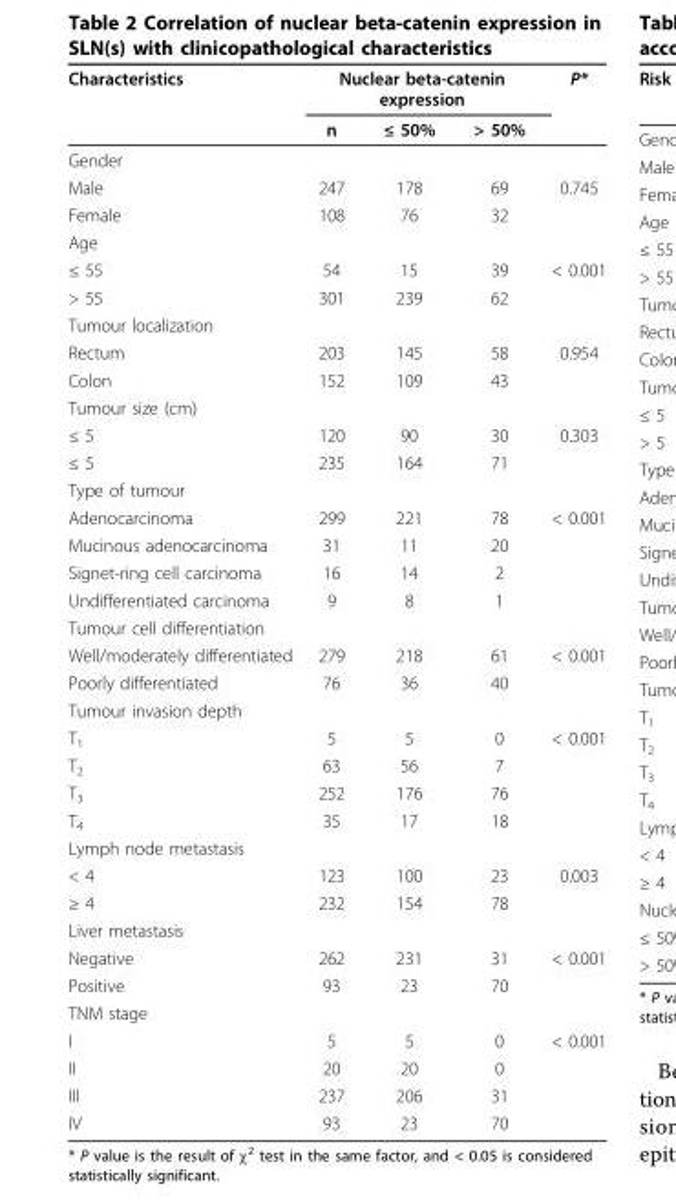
<table><thead><tr><td rowspan="2">Characteristics</td><td colspan="3">Nuclear beta-catenin expression</td><td rowspan="2">P*</td></tr><tr><td>n</td><td>≤ 50%</td><td>&gt; 50%</td></tr></thead><tbody><tr><td colspan="5">Gender</td></tr><tr><td>Male</td><td>247</td><td>178</td><td>69</td><td>0.745</td></tr><tr><td>Female</td><td>108</td><td>76</td><td>32</td><td></td></tr><tr><td colspan="5">Age</td></tr><tr><td>≤ 55</td><td>54</td><td>15</td><td>39</td><td>&lt; 0.001</td></tr><tr><td>&gt; 55</td><td>301</td><td>239</td><td>62</td><td></td></tr><tr><td colspan="5">Tumour localization</td></tr><tr><td>Rectum</td><td>203</td><td>145</td><td>58</td><td>0.954</td></tr><tr><td>Colon</td><td>152</td><td>109</td><td>43</td><td></td></tr><tr><td colspan="5">Tumour size (cm)</td></tr><tr><td>≤ 5</td><td>120</td><td>90</td><td>30</td><td>0.303</td></tr><tr><td>≤ 5</td><td>235</td><td>164</td><td>71</td><td></td></tr><tr><td colspan="5">Type of tumour</td></tr><tr><td>Adenocarcinoma</td><td>299</td><td>221</td><td>78</td><td>&lt; 0.001</td></tr><tr><td>Mucinous adenocarcinoma</td><td>31</td><td>11</td><td>20</td><td></td></tr><tr><td>Signet-ring cell carcinoma</td><td>16</td><td>14</td><td>2</td><td></td></tr><tr><td>Undifferentiated carcinoma</td><td>9</td><td>8</td><td>1</td><td></td></tr><tr><td colspan="5">Tumour cell differentiation</td></tr><tr><td>Well/moderately differentiated</td><td>279</td><td>218</td><td>61</td><td>&lt; 0.001</td></tr><tr><td>Poorly differentiated</td><td>76</td><td>36</td><td>40</td><td></td></tr><tr><td colspan="5">Tumour invasion depth</td></tr><tr><td>T<sub>1</sub></td><td>5</td><td>5</td><td>0</td><td>&lt; 0.001</td></tr><tr><td>T<sub>2</sub></td><td>63</td><td>56</td><td>7</td><td></td></tr><tr><td>T<sub>3</sub></td><td>252</td><td>176</td><td>76</td><td></td></tr><tr><td>T<sub>4</sub></td><td>35</td><td>17</td><td>18</td><td></td></tr><tr><td colspan="5">Lymph node metastasis</td></tr><tr><td>&lt; 4</td><td>123</td><td>100</td><td>23</td><td>0.003</td></tr><tr><td>≥ 4</td><td>232</td><td>154</td><td>78</td><td></td></tr><tr><td colspan="5">Liver metastasis</td></tr><tr><td>Negative</td><td>262</td><td>231</td><td>31</td><td>&lt; 0.001</td></tr><tr><td>Positive</td><td>93</td><td>23</td><td>70</td><td></td></tr><tr><td colspan="5">TNM stage</td></tr><tr><td>I</td><td>5</td><td>5</td><td>0</td><td>&lt; 0.001</td></tr><tr><td>II</td><td>20</td><td>20</td><td>0</td><td></td></tr><tr><td>III</td><td>237</td><td>206</td><td>31</td><td></td></tr><tr><td>IV</td><td>93</td><td>23</td><td>70</td><td></td></tr></tbody></table>